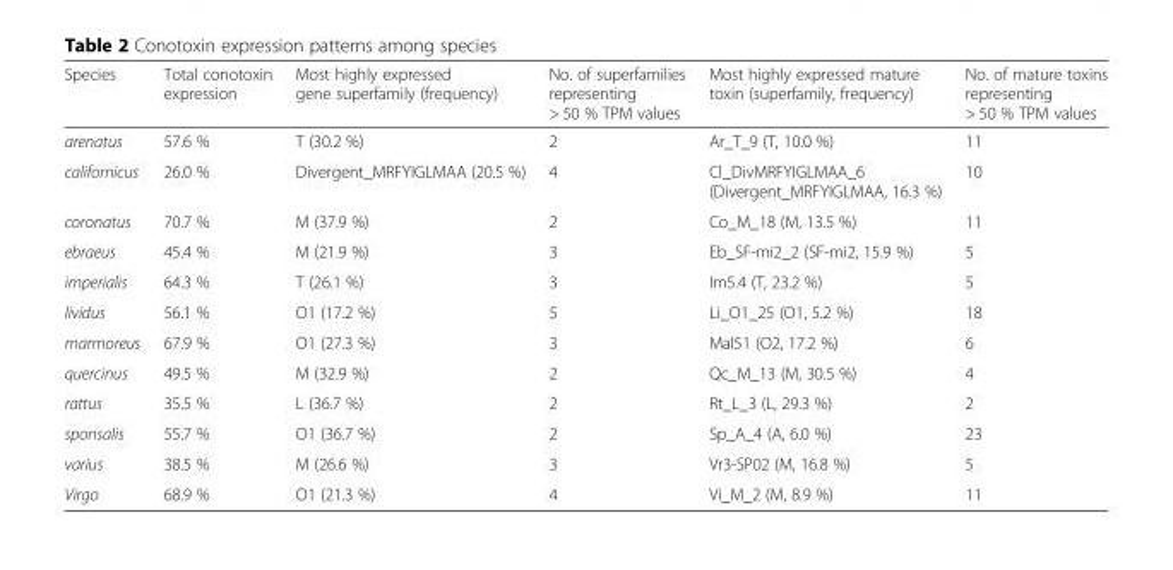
<table><thead><tr><td>Species</td><td>Total conotoxin expression</td><td>Most highly expressed gene superfamily (frequency)</td><td>No. of superfamilies representing &gt; 50 % TPM values</td><td>Most highly expressed mature toxin (superfamily, frequency)</td><td>No. of mature toxins representing &gt; 50 % TPM values</td></tr></thead><tbody><tr><td>arenatus</td><td>57.6 %</td><td>T (30.2 %)</td><td>2</td><td>Ar_T_9 (T, 10.0 %)</td><td>11</td></tr><tr><td>californicus</td><td>26.0 %</td><td>Divergent_MRFYIGLMAA (20.5 %)</td><td>4</td><td>Cl_DivMRFYIGLMAA_6 (Divergent_MRFYIGLMAA, 16.3 %)</td><td>10</td></tr><tr><td>coronatus</td><td>70.7 %</td><td>M (37.9 %)</td><td>2</td><td>Co_M_18 (M, 13.5 %)</td><td>11</td></tr><tr><td>ebraeus</td><td>45.4 %</td><td>M (21.9 %)</td><td>3</td><td>Eb_SF-mi2_2 (SF-mi2, 15.9 %)</td><td>5</td></tr><tr><td>imperialis</td><td>64.3 %</td><td>T (26.1 %)</td><td>3</td><td>Im5.4 (T, 23.2 %)</td><td>5</td></tr><tr><td>lividus</td><td>56.1 %</td><td>O1 (17.2 %)</td><td>5</td><td>Li_O1_25 (O1, 5.2 %)</td><td>18</td></tr><tr><td>marmoreus</td><td>67.9 %</td><td>O1 (27.3 %)</td><td>3</td><td>MaI51 (O2, 17.2 %)</td><td>6</td></tr><tr><td>quercinus</td><td>49.5 %</td><td>M (32.9 %)</td><td>2</td><td>Qc_M_13 (M, 30.5 %)</td><td>4</td></tr><tr><td>rattus</td><td>35.5 %</td><td>L (36.7 %)</td><td>2</td><td>Rt_L_3 (L, 29.3 %)</td><td>2</td></tr><tr><td>sponsalis</td><td>55.7 %</td><td>O1 (36.7 %)</td><td>2</td><td>Sp_A_4 (A, 6.0 %)</td><td>23</td></tr><tr><td>varius</td><td>38.5 %</td><td>M (26.6 %)</td><td>3</td><td>Vr3-SP02 (M, 16.8 %)</td><td>5</td></tr><tr><td>Virgo</td><td>68.9 %</td><td>O1 (21.3 %)</td><td>4</td><td>Vi_M_2 (M, 8.9 %)</td><td>11</td></tr></tbody></table>